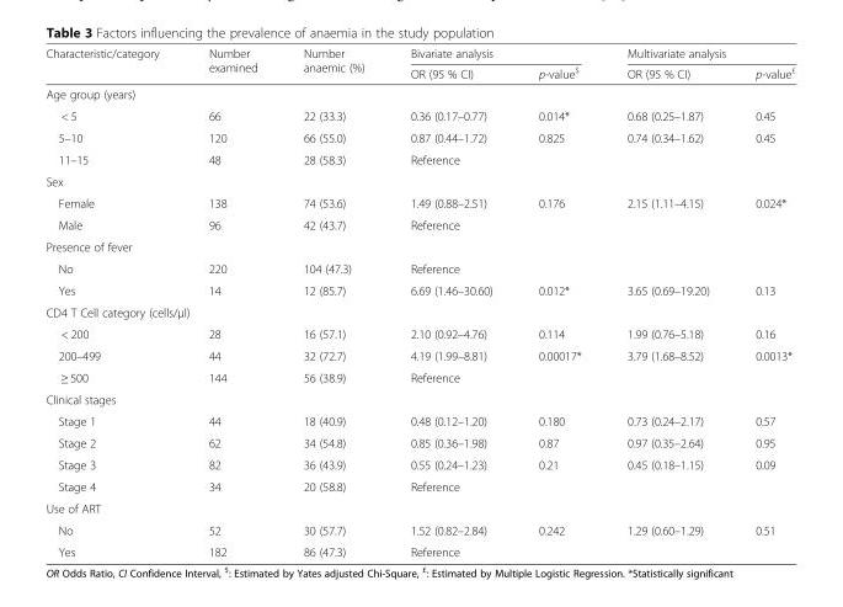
<table><thead><tr><td rowspan="2">Characteristic/category</td><td rowspan="2">Number examined</td><td rowspan="2">Number anaemic (%)</td><td colspan="2">Bivariate analysis</td><td colspan="2">Multivariate analysis</td></tr><tr><td>OR (95 % CI)</td><td>p-value<sup>$</sup></td><td>OR (95 % CI)</td><td>p-value<sup>£</sup></td></tr></thead><tbody><tr><td colspan="7">Age group (years)</td></tr><tr><td>&lt; 5</td><td>66</td><td>22 (33.3)</td><td>0.36 (0.17–0.77)</td><td>0.014*</td><td>0.68 (0.25–1.87)</td><td>0.45</td></tr><tr><td>5–10</td><td>120</td><td>66 (55.0)</td><td>0.87 (0.44–1.72)</td><td>0.825</td><td>0.74 (0.34–1.62)</td><td>0.45</td></tr><tr><td>11–15</td><td>48</td><td>28 (58.3)</td><td>Reference</td><td></td><td></td><td></td></tr><tr><td colspan="7">Sex</td></tr><tr><td>Female</td><td>138</td><td>74 (53.6)</td><td>1.49 (0.88–2.51)</td><td>0.176</td><td>2.15 (1.11–4.15)</td><td>0.024*</td></tr><tr><td>Male</td><td>96</td><td>42 (43.7)</td><td>Reference</td><td></td><td></td><td></td></tr><tr><td colspan="7">Presence of fever</td></tr><tr><td>No</td><td>220</td><td>104 (47.3)</td><td>Reference</td><td></td><td></td><td></td></tr><tr><td>Yes</td><td>14</td><td>12 (85.7)</td><td>6.69 (1.46–30.60)</td><td>0.012*</td><td>3.65 (0.69–19.20)</td><td>0.13</td></tr><tr><td colspan="7">CD4 T Cell category (cells/μl)</td></tr><tr><td>&lt; 200</td><td>28</td><td>16 (57.1)</td><td>2.10 (0.92–4.76)</td><td>0.114</td><td>1.99 (0.76–5.18)</td><td>0.16</td></tr><tr><td>200–499</td><td>44</td><td>32 (72.7)</td><td>4.19 (1.99–8.81)</td><td>0.00017*</td><td>3.79 (1.68–8.52)</td><td>0.0013*</td></tr><tr><td>≥ 500</td><td>144</td><td>56 (38.9)</td><td>Reference</td><td></td><td></td><td></td></tr><tr><td colspan="7">Clinical stages</td></tr><tr><td>Stage 1</td><td>44</td><td>18 (40.9)</td><td>0.48 (0.12–1.20)</td><td>0.180</td><td>0.73 (0.24–2.17)</td><td>0.57</td></tr><tr><td>Stage 2</td><td>62</td><td>34 (54.8)</td><td>0.85 (0.36–1.98)</td><td>0.87</td><td>0.97 (0.35–2.64)</td><td>0.95</td></tr><tr><td>Stage 3</td><td>82</td><td>36 (43.9)</td><td>0.55 (0.24–1.23)</td><td>0.21</td><td>0.45 (0.18–1.15)</td><td>0.09</td></tr><tr><td>Stage 4</td><td>34</td><td>20 (58.8)</td><td>Reference</td><td></td><td></td><td></td></tr><tr><td colspan="7">Use of ART</td></tr><tr><td>No</td><td>52</td><td>30 (57.7)</td><td>1.52 (0.82–2.84)</td><td>0.242</td><td>1.29 (0.60–1.29)</td><td>0.51</td></tr><tr><td>Yes</td><td>182</td><td>86 (47.3)</td><td>Reference</td><td></td><td></td><td></td></tr></tbody></table>